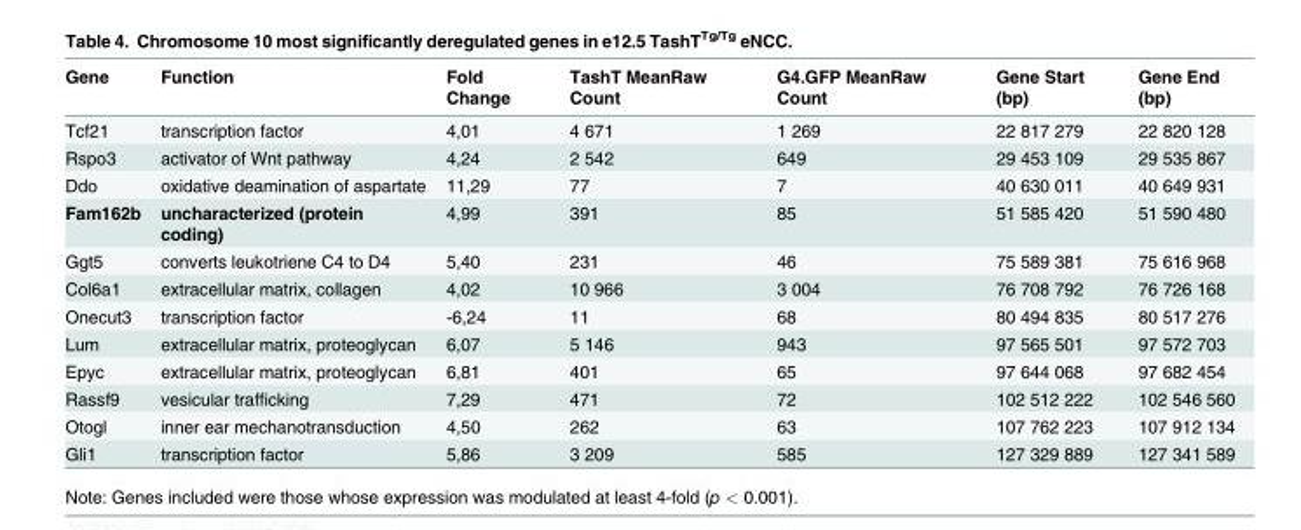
<table><thead><tr><td>Gene</td><td>Function</td><td>Fold Change</td><td>TashT MeanRaw Count</td><td>G4.GFP MeanRaw Count</td><td>Gene Start (bp)</td><td>Gene End (bp)</td></tr></thead><tbody><tr><td>Tcf21</td><td>transcription factor</td><td>4,01</td><td>4 671</td><td>1 269</td><td>22 817 279</td><td>22 820 128</td></tr><tr><td>Rspo3</td><td>activator of Wnt pathway</td><td>4,24</td><td>2 542</td><td>649</td><td>29 453 109</td><td>29 535 867</td></tr><tr><td>Ddo</td><td>oxidative deamination of aspartate</td><td>11,29</td><td>77</td><td>7</td><td>40 630 011</td><td>40 649 931</td></tr><tr><td>Fam162b</td><td>uncharacterized (protein coding)</td><td>4,99</td><td>391</td><td>85</td><td>51 585 420</td><td>51 590 480</td></tr><tr><td>Ggt5</td><td>converts leukotriene C4 to D4</td><td>5,40</td><td>231</td><td>46</td><td>75 589 381</td><td>75 616 968</td></tr><tr><td>Col6a1</td><td>extracellular matrix, collagen</td><td>4,02</td><td>10 966</td><td>3 004</td><td>76 708 792</td><td>76 726 168</td></tr><tr><td>Onecut3</td><td>transcription factor</td><td>-6,24</td><td>11</td><td>68</td><td>80 494 835</td><td>80 517 276</td></tr><tr><td>Lum</td><td>extracellular matrix, proteoglycan</td><td>6,07</td><td>5 146</td><td>943</td><td>97 565 501</td><td>97 572 703</td></tr><tr><td>Epyc</td><td>extracellular matrix, proteoglycan</td><td>6,81</td><td>401</td><td>65</td><td>97 644 068</td><td>97 682 454</td></tr><tr><td>Rassf9</td><td>vesicular trafficking</td><td>7,29</td><td>471</td><td>72</td><td>102 512 222</td><td>102 546 560</td></tr><tr><td>Otogl</td><td>inner ear mechanotransduction</td><td>4,50</td><td>262</td><td>63</td><td>107 762 223</td><td>107 912 134</td></tr><tr><td>Gli1</td><td>transcription factor</td><td>5,86</td><td>3 209</td><td>585</td><td>127 329 889</td><td>127 341 589</td></tr></tbody></table>